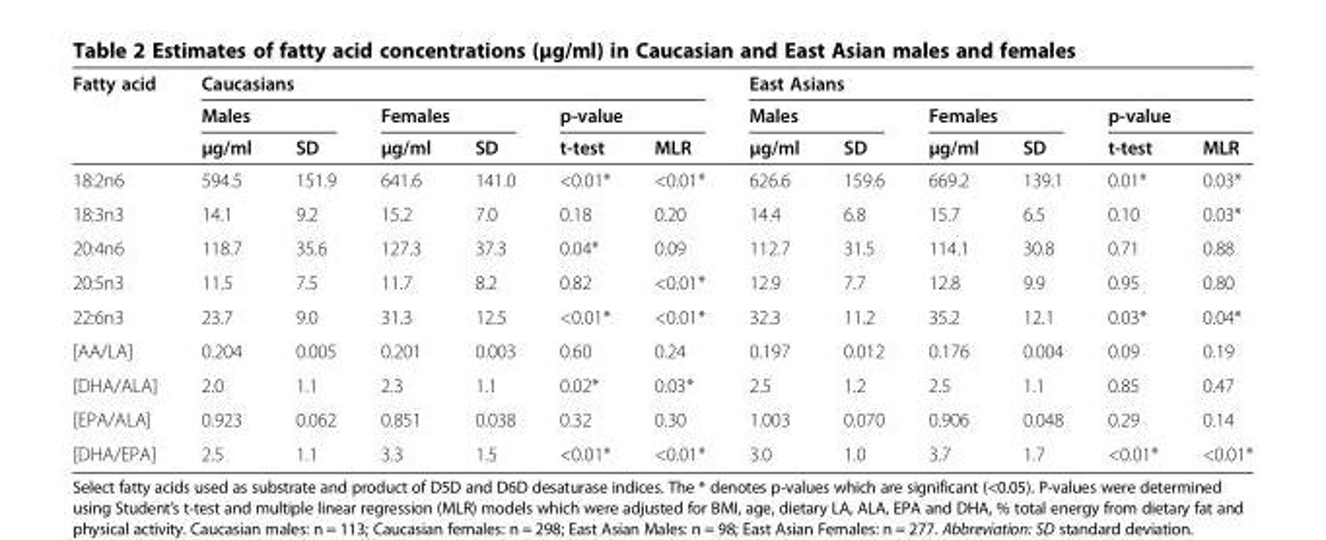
<table><thead><tr><td rowspan="3">Fatty acid</td><td colspan="6">Caucasians</td><td colspan="6">East Asians</td></tr><tr><td colspan="2">Males</td><td colspan="2">Females</td><td colspan="2">p-value</td><td colspan="2">Males</td><td colspan="2">Females</td><td colspan="2">p-value</td></tr><tr><td>μg/ml</td><td>SD</td><td>μg/ml</td><td>SD</td><td>t-test</td><td>MLR</td><td>μg/ml</td><td>SD</td><td>μg/ml</td><td>SD</td><td>t-test</td><td>MLR</td></tr></thead><tbody><tr><td>18:2n6</td><td>594.5</td><td>151.9</td><td>641.6</td><td>141.0</td><td>&lt;0.01*</td><td>&lt;0.01*</td><td>626.6</td><td>159.6</td><td>669.2</td><td>139.1</td><td>0.01*</td><td>0.03*</td></tr><tr><td>18:3n3</td><td>14.1</td><td>9.2</td><td>15.2</td><td>7.0</td><td>0.18</td><td>0.20</td><td>14.4</td><td>6.8</td><td>15.7</td><td>6.5</td><td>0.10</td><td>0.03*</td></tr><tr><td>20:4n6</td><td>118.7</td><td>35.6</td><td>127.3</td><td>37.3</td><td>0.04*</td><td>0.09</td><td>112.7</td><td>31.5</td><td>114.1</td><td>30.8</td><td>0.71</td><td>0.88</td></tr><tr><td>20:5n3</td><td>11.5</td><td>7.5</td><td>11.7</td><td>8.2</td><td>0.82</td><td>&lt;0.01*</td><td>12.9</td><td>7.7</td><td>12.8</td><td>9.9</td><td>0.95</td><td>0.80</td></tr><tr><td>22:6n3</td><td>23.7</td><td>9.0</td><td>31.3</td><td>12.5</td><td>&lt;0.01*</td><td>&lt;0.01*</td><td>32.3</td><td>11.2</td><td>35.2</td><td>12.1</td><td>0.03*</td><td>0.04*</td></tr><tr><td>[AA/LA]</td><td>0.204</td><td>0.005</td><td>0.201</td><td>0.003</td><td>0.60</td><td>0.24</td><td>0.197</td><td>0.012</td><td>0.176</td><td>0.004</td><td>0.09</td><td>0.19</td></tr><tr><td>[DHA/ALA]</td><td>2.0</td><td>1.1</td><td>2.3</td><td>1.1</td><td>0.02*</td><td>0.03*</td><td>2.5</td><td>1.2</td><td>2.5</td><td>1.1</td><td>0.85</td><td>0.47</td></tr><tr><td>[EPA/ALA]</td><td>0.923</td><td>0.062</td><td>0.851</td><td>0.038</td><td>0.32</td><td>0.30</td><td>1.003</td><td>0.070</td><td>0.906</td><td>0.048</td><td>0.29</td><td>0.14</td></tr><tr><td>[DHA/EPA]</td><td>2.5</td><td>1.1</td><td>3.3</td><td>1.5</td><td>&lt;0.01*</td><td>&lt;0.01*</td><td>3.0</td><td>1.0</td><td>3.7</td><td>1.7</td><td>&lt;0.01*</td><td>&lt;0.01*</td></tr></tbody></table>